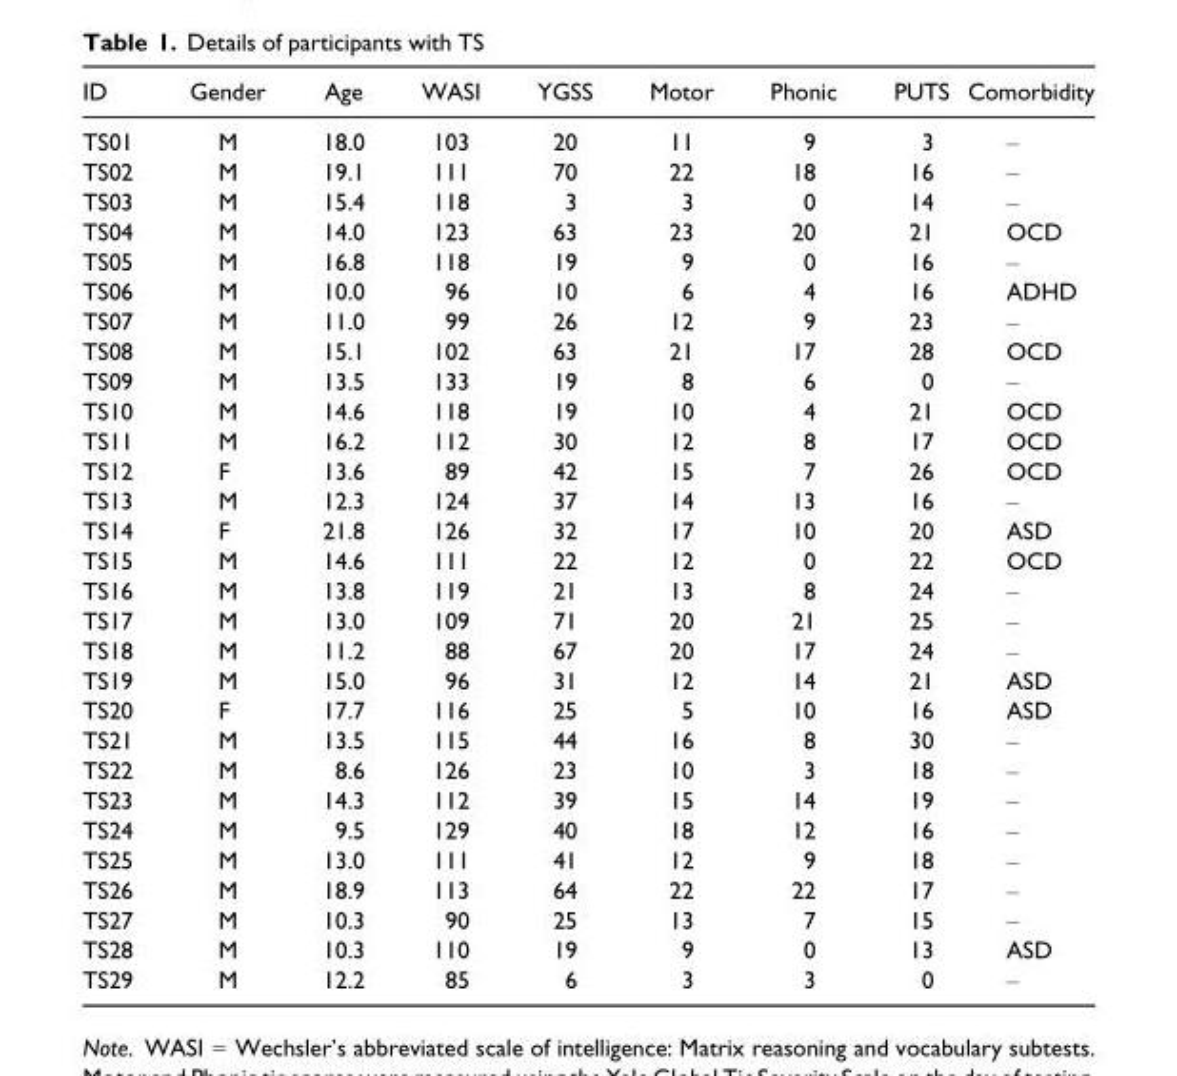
<table><thead><tr><td>ID</td><td>Gender</td><td>Age</td><td>WASI</td><td>YGSS</td><td>Motor</td><td>Phonic</td><td>PUTS</td><td>Comorbidity</td></tr></thead><tbody><tr><td>TS01</td><td>M</td><td>18.0</td><td>103</td><td>20</td><td>11</td><td>9</td><td>3</td><td>–</td></tr><tr><td>TS02</td><td>M</td><td>19.1</td><td>111</td><td>70</td><td>22</td><td>18</td><td>16</td><td>–</td></tr><tr><td>TS03</td><td>M</td><td>15.4</td><td>118</td><td>3</td><td>3</td><td>0</td><td>14</td><td>–</td></tr><tr><td>TS04</td><td>M</td><td>14.0</td><td>123</td><td>63</td><td>23</td><td>20</td><td>21</td><td>OCD</td></tr><tr><td>TS05</td><td>M</td><td>16.8</td><td>118</td><td>19</td><td>9</td><td>0</td><td>16</td><td>–</td></tr><tr><td>TS06</td><td>M</td><td>10.0</td><td>96</td><td>10</td><td>6</td><td>4</td><td>16</td><td>ADHD</td></tr><tr><td>TS07</td><td>M</td><td>11.0</td><td>99</td><td>26</td><td>12</td><td>9</td><td>23</td><td>–</td></tr><tr><td>TS08</td><td>M</td><td>15.1</td><td>102</td><td>63</td><td>21</td><td>17</td><td>28</td><td>OCD</td></tr><tr><td>TS09</td><td>M</td><td>13.5</td><td>133</td><td>19</td><td>8</td><td>6</td><td>0</td><td>–</td></tr><tr><td>TS10</td><td>M</td><td>14.6</td><td>118</td><td>19</td><td>10</td><td>4</td><td>21</td><td>OCD</td></tr><tr><td>TS11</td><td>M</td><td>16.2</td><td>112</td><td>30</td><td>12</td><td>8</td><td>17</td><td>OCD</td></tr><tr><td>TS12</td><td>F</td><td>13.6</td><td>89</td><td>42</td><td>15</td><td>7</td><td>26</td><td>OCD</td></tr><tr><td>TS13</td><td>M</td><td>12.3</td><td>124</td><td>37</td><td>14</td><td>13</td><td>16</td><td>–</td></tr><tr><td>TS14</td><td>F</td><td>21.8</td><td>126</td><td>32</td><td>17</td><td>10</td><td>20</td><td>ASD</td></tr><tr><td>TS15</td><td>M</td><td>14.6</td><td>111</td><td>22</td><td>12</td><td>0</td><td>22</td><td>OCD</td></tr><tr><td>TS16</td><td>M</td><td>13.8</td><td>119</td><td>21</td><td>13</td><td>8</td><td>24</td><td>–</td></tr><tr><td>TS17</td><td>M</td><td>13.0</td><td>109</td><td>71</td><td>20</td><td>21</td><td>25</td><td>–</td></tr><tr><td>TS18</td><td>M</td><td>11.2</td><td>88</td><td>67</td><td>20</td><td>17</td><td>24</td><td>–</td></tr><tr><td>TS19</td><td>M</td><td>15.0</td><td>96</td><td>31</td><td>12</td><td>14</td><td>21</td><td>ASD</td></tr><tr><td>TS20</td><td>F</td><td>17.7</td><td>116</td><td>25</td><td>5</td><td>10</td><td>16</td><td>ASD</td></tr><tr><td>TS21</td><td>M</td><td>13.5</td><td>115</td><td>44</td><td>16</td><td>8</td><td>30</td><td>–</td></tr><tr><td>TS22</td><td>M</td><td>8.6</td><td>126</td><td>23</td><td>10</td><td>3</td><td>18</td><td>–</td></tr><tr><td>TS23</td><td>M</td><td>14.3</td><td>112</td><td>39</td><td>15</td><td>14</td><td>19</td><td>–</td></tr><tr><td>TS24</td><td>M</td><td>9.5</td><td>129</td><td>40</td><td>18</td><td>12</td><td>16</td><td>–</td></tr><tr><td>TS25</td><td>M</td><td>13.0</td><td>111</td><td>41</td><td>12</td><td>9</td><td>18</td><td>–</td></tr><tr><td>TS26</td><td>M</td><td>18.9</td><td>113</td><td>64</td><td>22</td><td>22</td><td>17</td><td>–</td></tr><tr><td>TS27</td><td>M</td><td>10.3</td><td>90</td><td>25</td><td>13</td><td>7</td><td>15</td><td>–</td></tr><tr><td>TS28</td><td>M</td><td>10.3</td><td>110</td><td>19</td><td>9</td><td>0</td><td>13</td><td>ASD</td></tr><tr><td>TS29</td><td>M</td><td>12.2</td><td>85</td><td>6</td><td>3</td><td>3</td><td>0</td><td>–</td></tr></tbody></table>